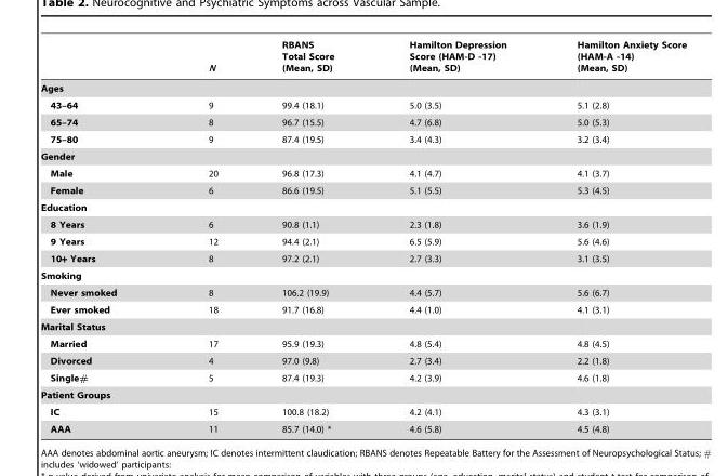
<table><thead><tr><td></td><td>N</td><td>RBANS Total Score (Mean, SD)</td><td>Hamilton Depression Score (HAM-D -17) (Mean, SD)</td><td>Hamilton Anxiety Score (HAM-A -14) (Mean, SD)</td></tr></thead><tbody><tr><td colspan="5">Ages</td></tr><tr><td>43–64</td><td>9</td><td>99.4 (18.1)</td><td>5.0 (3.5)</td><td>5.1 (2.8)</td></tr><tr><td>65–74</td><td>8</td><td>96.7 (15.5)</td><td>4.7 (6.8)</td><td>5.0 (5.3)</td></tr><tr><td>75–80</td><td>9</td><td>87.4 (19.5)</td><td>3.4 (4.3)</td><td>3.2 (3.4)</td></tr><tr><td colspan="5">Gender</td></tr><tr><td>Male</td><td>20</td><td>96.8 (17.3)</td><td>4.1 (4.7)</td><td>4.1 (3.7)</td></tr><tr><td>Female</td><td>6</td><td>86.6 (19.5)</td><td>5.1 (5.5)</td><td>5.3 (4.5)</td></tr><tr><td colspan="5">Education</td></tr><tr><td>8 Years</td><td>6</td><td>90.8 (1.1)</td><td>2.3 (1.8)</td><td>3.6 (1.9)</td></tr><tr><td>9 Years</td><td>12</td><td>94.4 (2.1)</td><td>6.5 (5.9)</td><td>5.6 (4.6)</td></tr><tr><td>10+ Years</td><td>8</td><td>97.2 (2.1)</td><td>2.7 (3.3)</td><td>3.1 (3.5)</td></tr><tr><td colspan="5">Smoking</td></tr><tr><td>Never smoked</td><td>8</td><td>106.2 (19.9)</td><td>4.4 (5.7)</td><td>5.6 (6.7)</td></tr><tr><td>Ever smoked</td><td>18</td><td>91.7 (16.8)</td><td>4.4 (1.0)</td><td>4.1 (3.1)</td></tr><tr><td colspan="5">Marital Status</td></tr><tr><td>Married</td><td>17</td><td>95.9 (19.3)</td><td>4.8 (5.4)</td><td>4.8 (4.5)</td></tr><tr><td>Divorced</td><td>4</td><td>97.0 (9.8)</td><td>2.7 (3.4)</td><td>2.2 (1.8)</td></tr><tr><td>Single#</td><td>5</td><td>87.4 (19.3)</td><td>4.2 (3.9)</td><td>4.6 (1.8)</td></tr><tr><td colspan="5">Patient Groups</td></tr><tr><td>IC</td><td>15</td><td>100.8 (18.2)</td><td>4.2 (4.1)</td><td>4.3 (3.1)</td></tr><tr><td>AAA</td><td>11</td><td>85.7 (14.0) *</td><td>4.6 (5.8)</td><td>4.5 (4.8)</td></tr></tbody></table>